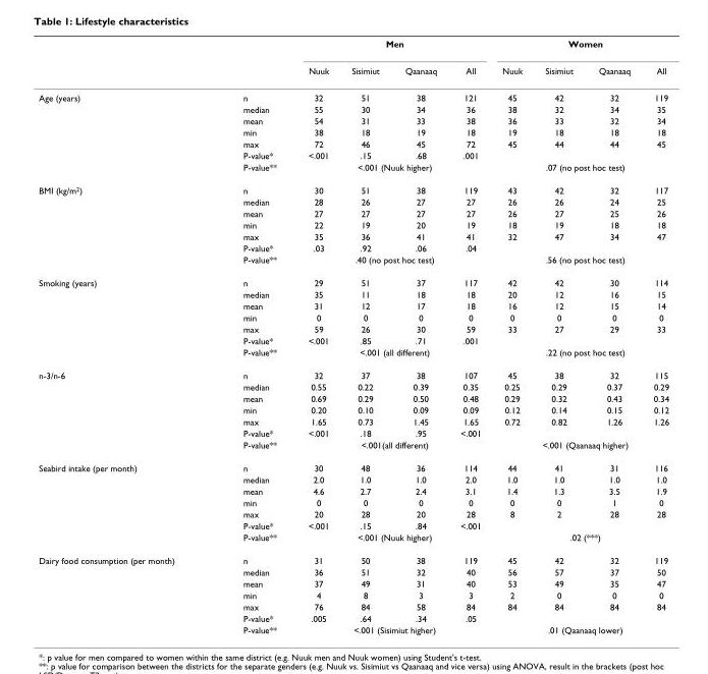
<table><thead><tr><td rowspan="2"></td><td rowspan="2"></td><td colspan="4">Men</td><td colspan="4">Women</td></tr><tr><td>Nuuk</td><td>Sisimiut</td><td>Qaanaaq</td><td>All</td><td>Nuuk</td><td>Sisimiut</td><td>Qaanaaq</td><td>All</td></tr></thead><tbody><tr><td rowspan="7">Age (years)</td><td>n</td><td>32</td><td>51</td><td>38</td><td>121</td><td>45</td><td>42</td><td>32</td><td>119</td></tr><tr><td>median</td><td>55</td><td>30</td><td>34</td><td>36</td><td>38</td><td>32</td><td>34</td><td>35</td></tr><tr><td>mean</td><td>54</td><td>31</td><td>33</td><td>38</td><td>36</td><td>33</td><td>32</td><td>34</td></tr><tr><td>min</td><td>38</td><td>18</td><td>19</td><td>18</td><td>19</td><td>18</td><td>18</td><td>18</td></tr><tr><td>max</td><td>72</td><td>46</td><td>45</td><td>72</td><td>45</td><td>44</td><td>44</td><td>45</td></tr><tr><td>P-value*</td><td>&lt;.001</td><td>.15</td><td>.68</td><td>.001</td><td></td><td></td><td></td><td></td></tr><tr><td>P-value**</td><td colspan="4">&lt;.001 (Nuuk higher)</td><td colspan="4">.07 (no post hoc test)</td></tr><tr><td rowspan="7">BMI (kg/m<sup>2</sup>)</td><td>n</td><td>30</td><td>51</td><td>38</td><td>119</td><td>43</td><td>42</td><td>32</td><td>117</td></tr><tr><td>median</td><td>28</td><td>26</td><td>27</td><td>27</td><td>26</td><td>26</td><td>24</td><td>25</td></tr><tr><td>mean</td><td>27</td><td>27</td><td>27</td><td>27</td><td>26</td><td>27</td><td>25</td><td>26</td></tr><tr><td>min</td><td>22</td><td>19</td><td>20</td><td>19</td><td>18</td><td>19</td><td>18</td><td>18</td></tr><tr><td>max</td><td>35</td><td>36</td><td>41</td><td>41</td><td>32</td><td>47</td><td>34</td><td>47</td></tr><tr><td>P-value*</td><td>.03</td><td>.92</td><td>.06</td><td>.04</td><td></td><td></td><td></td><td></td></tr><tr><td>P-value**</td><td colspan="4">.40 (no post hoc test)</td><td colspan="4">.56 (no post hoc test)</td></tr><tr><td rowspan="7">Smoking (years)</td><td>n</td><td>29</td><td>51</td><td>37</td><td>117</td><td>42</td><td>42</td><td>30</td><td>114</td></tr><tr><td>median</td><td>35</td><td>11</td><td>18</td><td>18</td><td>20</td><td>12</td><td>16</td><td>15</td></tr><tr><td>mean</td><td>31</td><td>12</td><td>17</td><td>18</td><td>16</td><td>12</td><td>15</td><td>14</td></tr><tr><td>min</td><td>0</td><td>0</td><td>0</td><td>0</td><td>0</td><td>0</td><td>0</td><td>0</td></tr><tr><td>max</td><td>59</td><td>26</td><td>30</td><td>59</td><td>33</td><td>27</td><td>29</td><td>33</td></tr><tr><td>P-value*</td><td>&lt;.001</td><td>.85</td><td>.71</td><td>.001</td><td></td><td></td><td></td><td></td></tr><tr><td>P-value**</td><td colspan="4">&lt;.001 (all different)</td><td colspan="4">.22 (no post hoc test)</td></tr><tr><td rowspan="7">n-3/n-6</td><td>n</td><td>32</td><td>37</td><td>38</td><td>107</td><td>45</td><td>38</td><td>32</td><td>115</td></tr><tr><td>median</td><td>0.55</td><td>0.22</td><td>0.39</td><td>0.35</td><td>0.25</td><td>0.29</td><td>0.37</td><td>0.29</td></tr><tr><td>mean</td><td>0.69</td><td>0.29</td><td>0.50</td><td>0.48</td><td>0.29</td><td>0.32</td><td>0.43</td><td>0.34</td></tr><tr><td>min</td><td>0.20</td><td>0.10</td><td>0.09</td><td>0.09</td><td>0.12</td><td>0.14</td><td>0.15</td><td>0.12</td></tr><tr><td>max</td><td>1.65</td><td>0.73</td><td>1.45</td><td>1.65</td><td>0.72</td><td>0.82</td><td>1.26</td><td>1.26</td></tr><tr><td>P-value*</td><td>&lt;.001</td><td>.18</td><td>.95</td><td>&lt;.001</td><td></td><td></td><td></td><td></td></tr><tr><td>P-value**</td><td colspan="4">&lt;.001(all different)</td><td colspan="4">&lt;.001 (Qaanaaq higher)</td></tr><tr><td rowspan="7">Seabird intake (per month)</td><td>n</td><td>30</td><td>48</td><td>36</td><td>114</td><td>44</td><td>41</td><td>31</td><td>116</td></tr><tr><td>median</td><td>2.0</td><td>1.0</td><td>1.0</td><td>2.0</td><td>1.0</td><td>1.0</td><td>1.0</td><td>1.0</td></tr><tr><td>mean</td><td>4.6</td><td>2.7</td><td>2.4</td><td>3.1</td><td>1.4</td><td>1.3</td><td>3.5</td><td>1.9</td></tr><tr><td>min</td><td>0</td><td>0</td><td>0</td><td>0</td><td>0</td><td>0</td><td>1</td><td>0</td></tr><tr><td>max</td><td>20</td><td>28</td><td>20</td><td>28</td><td>8</td><td>2</td><td>28</td><td>28</td></tr><tr><td>P-value*</td><td>&lt;.001</td><td>.15</td><td>.84</td><td>&lt;.001</td><td></td><td></td><td></td><td></td></tr><tr><td>P-value**</td><td colspan="4">&lt;.001 (Nuuk higher)</td><td colspan="4">.02 (***)</td></tr><tr><td rowspan="7">Dairy food consumption (per month)</td><td>n</td><td>31</td><td>50</td><td>38</td><td>119</td><td>45</td><td>42</td><td>32</td><td>119</td></tr><tr><td>median</td><td>36</td><td>51</td><td>32</td><td>40</td><td>56</td><td>57</td><td>37</td><td>50</td></tr><tr><td>mean</td><td>37</td><td>49</td><td>31</td><td>40</td><td>53</td><td>49</td><td>35</td><td>47</td></tr><tr><td>min</td><td>4</td><td>8</td><td>3</td><td>3</td><td>2</td><td>0</td><td>0</td><td>0</td></tr><tr><td>max</td><td>76</td><td>84</td><td>58</td><td>84</td><td>84</td><td>84</td><td>84</td><td>84</td></tr><tr><td>P-value*</td><td>.005</td><td>.64</td><td>.34</td><td>.05</td><td></td><td></td><td></td><td></td></tr><tr><td>P-value**</td><td colspan="4">&lt;.001 (Sisimiut higher)</td><td colspan="4">.01 (Qaanaaq lower)</td></tr></tbody></table>